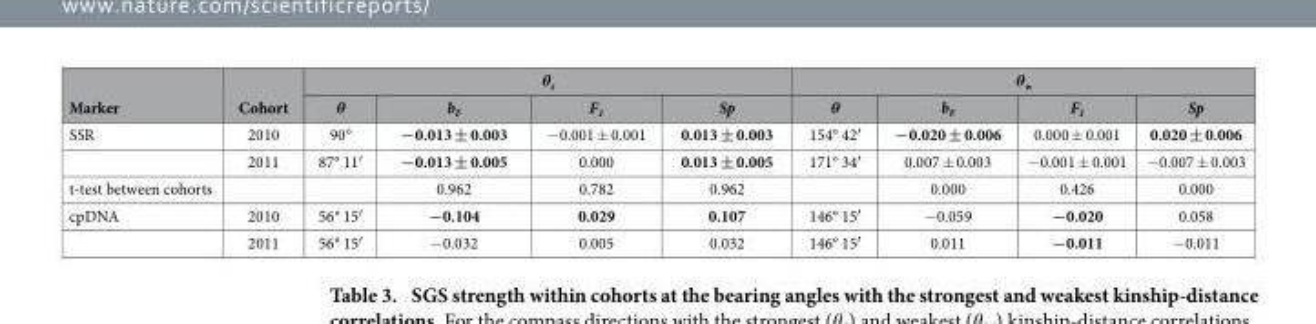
<table><thead><tr><td rowspan="2">Marker</td><td rowspan="2">Cohort</td><td colspan="4">θ<sub>s</sub></td><td colspan="4">θ<sub>w</sub></td></tr><tr><td>θ</td><td>b<sub>F</sub></td><td>F<sub>1</sub></td><td>Sp</td><td>θ</td><td>b<sub>F</sub></td><td>F<sub>1</sub></td><td>Sp</td></tr></thead><tbody><tr><td rowspan="2">SSR</td><td>2010</td><td>90°</td><td>−0.013 ± 0.003</td><td>− 0.001 ± 0.001</td><td>0.013 ± 0.003</td><td>154° 42′</td><td>−0.020 ± 0.006</td><td>0.000 ± 0.001</td><td>0.020 ± 0.006</td></tr><tr><td>2011</td><td>87° 11′</td><td>−0.013 ± 0.005</td><td>0.000</td><td>0.013 ± 0.005</td><td>171° 34′</td><td>0.007 ± 0.003</td><td>− 0.001 ± 0.001</td><td>− 0.007 ± 0.003</td></tr><tr><td>t-test between cohorts</td><td></td><td></td><td>0.962</td><td>0.782</td><td>0.962</td><td></td><td>0.000</td><td>0.426</td><td>0.000</td></tr><tr><td rowspan="2">cpDNA</td><td>2010</td><td>56° 15′</td><td>−0.104</td><td>0.029</td><td>0.107</td><td>146° 15′</td><td>− 0.059</td><td>−0.020</td><td>0.058</td></tr><tr><td>2011</td><td>56° 15′</td><td>− 0.032</td><td>0.005</td><td>0.032</td><td>146° 15′</td><td>0.011</td><td>−0.011</td><td>− 0.011</td></tr></tbody></table>